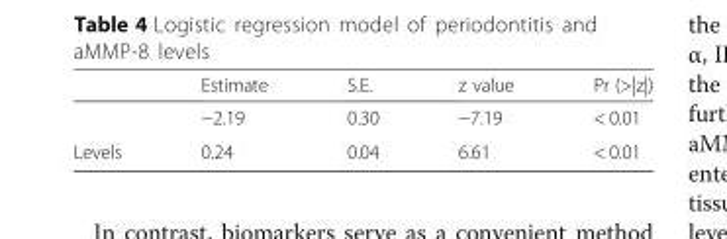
<table><thead><tr><td></td><td>Estimate</td><td>S.E.</td><td>z value</td><td>Pr (&gt;|z|)</td></tr></thead><tbody><tr><td></td><td>−2.19</td><td>0.30</td><td>−7.19</td><td>&lt; 0.01</td></tr><tr><td>Levels</td><td>0.24</td><td>0.04</td><td>6.61</td><td>&lt; 0.01</td></tr></tbody></table>